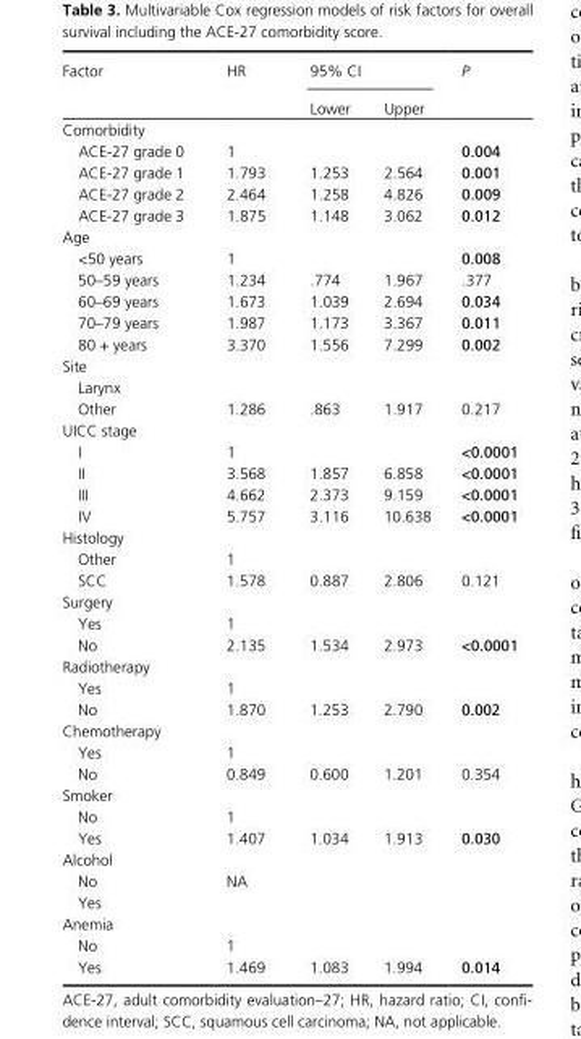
<table><thead><tr><td rowspan="2">Factor</td><td rowspan="2">HR</td><td colspan="2">95% CI</td><td rowspan="2">P</td></tr><tr><td>Lower</td><td>Upper</td></tr></thead><tbody><tr><td colspan="5">Comorbidity</td></tr><tr><td>ACE- 27 grade 0</td><td>1</td><td></td><td></td><td>0.004</td></tr><tr><td>ACE- 27 grade 1</td><td>1.793</td><td>1.253</td><td>2.564</td><td>0.001</td></tr><tr><td>ACE- 27 grade 2</td><td>2.464</td><td>1.258</td><td>4.826</td><td>0.009</td></tr><tr><td>ACE- 27 grade 3</td><td>1.875</td><td>1.148</td><td>3.062</td><td>0.012</td></tr><tr><td colspan="5">Age</td></tr><tr><td>&lt;50 years</td><td>1</td><td></td><td></td><td>0.008</td></tr><tr><td>50–59 years</td><td>1.234</td><td>.774</td><td>1.967</td><td>.377</td></tr><tr><td>60–69 years</td><td>1.673</td><td>1.039</td><td>2.694</td><td>0.034</td></tr><tr><td>70–79 years</td><td>1.987</td><td>1.173</td><td>3.367</td><td>0.011</td></tr><tr><td>80 + years</td><td>3.370</td><td>1.556</td><td>7.299</td><td>0.002</td></tr><tr><td colspan="5">Site</td></tr><tr><td colspan="5">Larynx</td></tr><tr><td>Other</td><td>1.286</td><td>.863</td><td>1.917</td><td>0.217</td></tr><tr><td colspan="5">UICC stage</td></tr><tr><td>I</td><td>1</td><td></td><td></td><td>&lt;0.0001</td></tr><tr><td>II</td><td>3.568</td><td>1.857</td><td>6.858</td><td>&lt;0.0001</td></tr><tr><td>III</td><td>4.662</td><td>2.373</td><td>9.159</td><td>&lt;0.0001</td></tr><tr><td>IV</td><td>5.757</td><td>3.116</td><td>10.638</td><td>&lt;0.0001</td></tr><tr><td colspan="5">Histology</td></tr><tr><td>Other</td><td>1</td><td></td><td></td><td></td></tr><tr><td>SCC</td><td>1.578</td><td>0.887</td><td>2.806</td><td>0.121</td></tr><tr><td colspan="5">Surgery</td></tr><tr><td>Yes</td><td>1</td><td></td><td></td><td></td></tr><tr><td>No</td><td>2.135</td><td>1.534</td><td>2.973</td><td>&lt;0.0001</td></tr><tr><td colspan="5">Radiotherapy</td></tr><tr><td>Yes</td><td>1</td><td></td><td></td><td></td></tr><tr><td>No</td><td>1.870</td><td>1.253</td><td>2.790</td><td>0.002</td></tr><tr><td colspan="5">Chemotherapy</td></tr><tr><td>Yes</td><td>1</td><td></td><td></td><td></td></tr><tr><td>No</td><td>0.849</td><td>0.600</td><td>1.201</td><td>0.354</td></tr><tr><td colspan="5">Smoker</td></tr><tr><td>No</td><td>1</td><td></td><td></td><td></td></tr><tr><td>Yes</td><td>1.407</td><td>1.034</td><td>1.913</td><td>0.030</td></tr><tr><td colspan="5">Alcohol</td></tr><tr><td>No</td><td>NA</td><td></td><td></td><td></td></tr><tr><td colspan="5">Yes</td></tr><tr><td colspan="5">Anemia</td></tr><tr><td>No</td><td>1</td><td></td><td></td><td></td></tr><tr><td>Yes</td><td>1.469</td><td>1.083</td><td>1.994</td><td>0.014</td></tr></tbody></table>